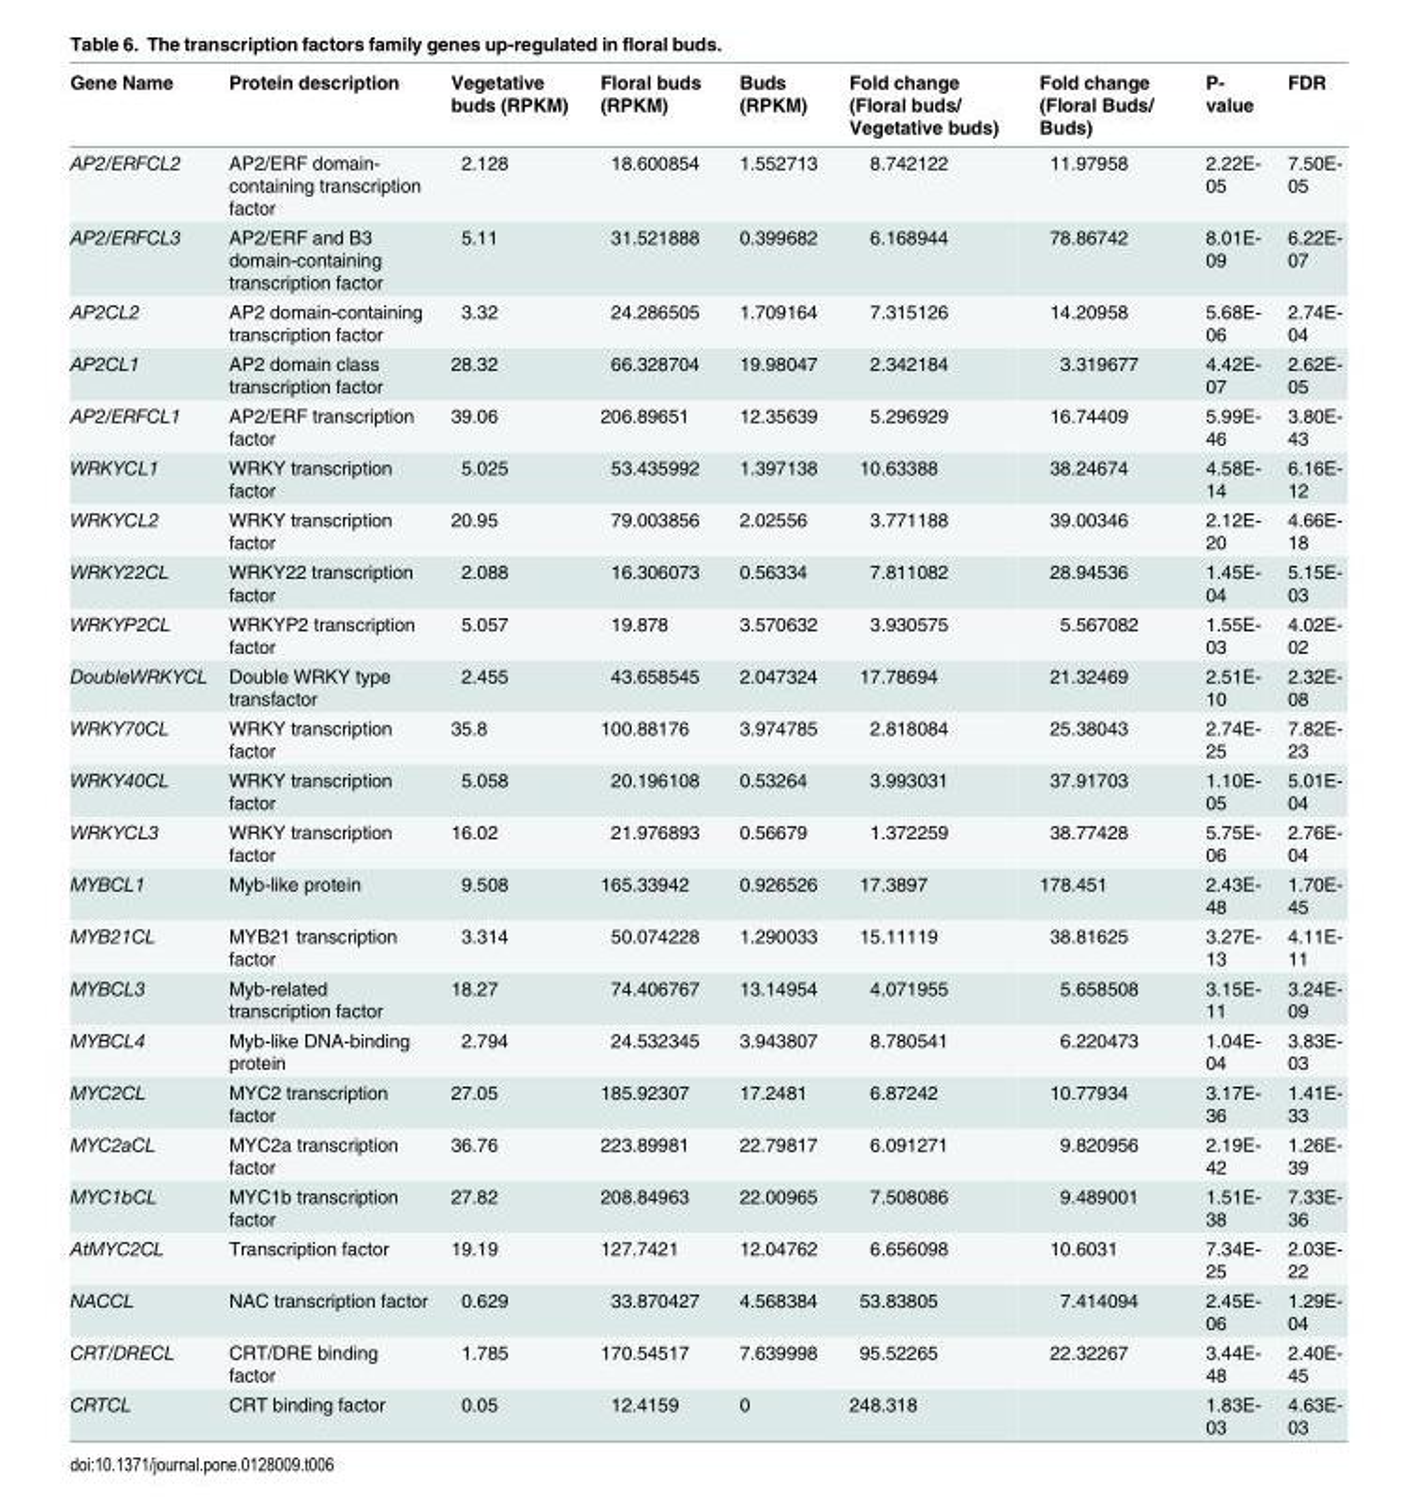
<table><thead><tr><td>Gene Name</td><td>Protein description</td><td>Vegetative buds (RPKM)</td><td>Floral buds (RPKM)</td><td>Buds (RPKM)</td><td>Fold change (Floral buds/ Vegetative buds)</td><td>Fold change (Floral Buds/ Buds)</td><td>P- value</td><td>FDR</td></tr></thead><tbody><tr><td>AP2/ERFCL2</td><td>AP2/ERF domain- containing transcription factor</td><td>2.128</td><td>18.600854</td><td>1.552713</td><td>8.742122</td><td>11.97958</td><td>2.22E- 05</td><td>7.50E- 05</td></tr><tr><td>AP2/ERFCL3</td><td>AP2/ERF and B3 domain-containing transcription factor</td><td>5.11</td><td>31.521888</td><td>0.399682</td><td>6.168944</td><td>78.86742</td><td>8.01E- 09</td><td>6.22E- 07</td></tr><tr><td>AP2CL2</td><td>AP2 domain-containing transcription factor</td><td>3.32</td><td>24.286505</td><td>1.709164</td><td>7.315126</td><td>14.20958</td><td>5.68E- 06</td><td>2.74E- 04</td></tr><tr><td>AP2CL1</td><td>AP2 domain class transcription factor</td><td>28.32</td><td>66.328704</td><td>19.98047</td><td>2.342184</td><td>3.319677</td><td>4.42E- 07</td><td>2.62E- 05</td></tr><tr><td>AP2/ERFCL1</td><td>AP2/ERF transcription factor</td><td>39.06</td><td>206.89651</td><td>12.35639</td><td>5.296929</td><td>16.74409</td><td>5.99E- 46</td><td>3.80E- 43</td></tr><tr><td>WRKYCL1</td><td>WRKY transcription factor</td><td>5.025</td><td>53.435992</td><td>1.397138</td><td>10.63388</td><td>38.24674</td><td>4.58E- 14</td><td>6.16E- 12</td></tr><tr><td>WRKYCL2</td><td>WRKY transcription factor</td><td>20.95</td><td>79.003856</td><td>2.02556</td><td>3.771188</td><td>39.00346</td><td>2.12E- 20</td><td>4.66E- 18</td></tr><tr><td>WRKY22CL</td><td>WRKY22 transcription factor</td><td>2.088</td><td>16.306073</td><td>0.56334</td><td>7.811082</td><td>28.94536</td><td>1.45E- 04</td><td>5.15E- 03</td></tr><tr><td>WRKYP2CL</td><td>WRKYP2 transcription factor</td><td>5.057</td><td>19.878</td><td>3.570632</td><td>3.930575</td><td>5.567082</td><td>1.55E- 03</td><td>4.02E- 02</td></tr><tr><td>DoubleWRKYCL</td><td>Double WRKY type transfactor</td><td>2.455</td><td>43.658545</td><td>2.047324</td><td>17.78694</td><td>21.32469</td><td>2.51E- 10</td><td>2.32E- 08</td></tr><tr><td>WRKY70CL</td><td>WRKY transcription factor</td><td>35.8</td><td>100.88176</td><td>3.974785</td><td>2.818084</td><td>25.38043</td><td>2.74E- 25</td><td>7.82E- 23</td></tr><tr><td>WRKY40CL</td><td>WRKY transcription factor</td><td>5.058</td><td>20.196108</td><td>0.53264</td><td>3.993031</td><td>37.91703</td><td>1.10E- 05</td><td>5.01E- 04</td></tr><tr><td>WRKYCL3</td><td>WRKY transcription factor</td><td>16.02</td><td>21.976893</td><td>0.56679</td><td>1.372259</td><td>38.77428</td><td>5.75E- 06</td><td>2.76E- 04</td></tr><tr><td>MYBCL1</td><td>Myb-like protein</td><td>9.508</td><td>165.33942</td><td>0.926526</td><td>17.3897</td><td>178.451</td><td>2.43E- 48</td><td>1.70E- 45</td></tr><tr><td>MYB21CL</td><td>MYB21 transcription factor</td><td>3.314</td><td>50.074228</td><td>1.290033</td><td>15.11119</td><td>38.81625</td><td>3.27E- 13</td><td>4.11E- 11</td></tr><tr><td>MYBCL3</td><td>Myb-related transcription factor</td><td>18.27</td><td>74.406767</td><td>13.14954</td><td>4.071955</td><td>5.658508</td><td>3.15E- 11</td><td>3.24E- 09</td></tr><tr><td>MYBCL4</td><td>Myb-like DNA-binding protein</td><td>2.794</td><td>24.532345</td><td>3.943807</td><td>8.780541</td><td>6.220473</td><td>1.04E- 04</td><td>3.83E- 03</td></tr><tr><td>MYC2CL</td><td>MYC2 transcription factor</td><td>27.05</td><td>185.92307</td><td>17.2481</td><td>6.87242</td><td>10.77934</td><td>3.17E- 36</td><td>1.41E- 33</td></tr><tr><td>MYC2aCL</td><td>MYC2a transcription factor</td><td>36.76</td><td>223.89981</td><td>22.79817</td><td>6.091271</td><td>9.820956</td><td>2.19E- 42</td><td>1.26E- 39</td></tr><tr><td>MYC1bCL</td><td>MYC1b transcription factor</td><td>27.82</td><td>208.84963</td><td>22.00965</td><td>7.508086</td><td>9.489001</td><td>1.51E- 38</td><td>7.33E- 36</td></tr><tr><td>AtMYC2CL</td><td>Transcription factor</td><td>19.19</td><td>127.7421</td><td>12.04762</td><td>6.656098</td><td>10.6031</td><td>7.34E- 25</td><td>2.03E- 22</td></tr><tr><td>NACCL</td><td>NAC transcription factor</td><td>0.629</td><td>33.870427</td><td>4.568384</td><td>53.83805</td><td>7.414094</td><td>2.45E- 06</td><td>1.29E- 04</td></tr><tr><td>CRT/DRECL</td><td>CRT/DRE binding factor</td><td>1.785</td><td>170.54517</td><td>7.639998</td><td>95.52265</td><td>22.32267</td><td>3.44E- 48</td><td>2.40E- 45</td></tr><tr><td>CRTCL</td><td>CRT binding factor</td><td>0.05</td><td>12.4159</td><td>0</td><td>248.318</td><td></td><td>1.83E- 03</td><td>4.63E- 03</td></tr></tbody></table>